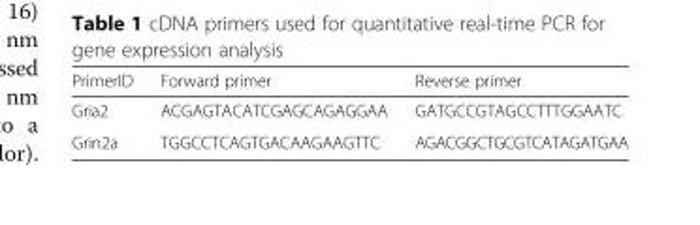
<table><thead><tr><td>PrimerID</td><td>Forward primer</td><td>Reverse primer</td></tr></thead><tbody><tr><td>Gria2</td><td>ACGAGTACATCGAGCAGAGGAA</td><td>GATGCCGTAGCCTTTGGAATC</td></tr><tr><td>Grin2a</td><td>TGGCCTCAGTGACAAGAAGTTC</td><td>AGACGGCTGCGTCATAGATGAA</td></tr></tbody></table>